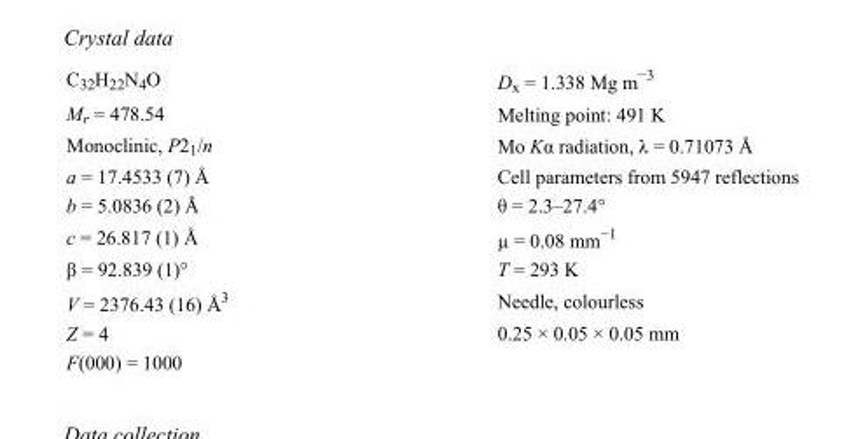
<table><tbody><tr><td>C<sub>32</sub>H<sub>22</sub>N<sub>4</sub>O</td><td>D<sub>x</sub> = 1.338 Mg m<sup>−3</sup></td></tr><tr><td>M<sub>r</sub> = 478.54</td><td>Melting point: 491 K</td></tr><tr><td>Monoclinic, P2<sub>1</sub>/n</td><td>Mo Kα radiation, λ = 0.71073 Å</td></tr><tr><td>a = 17.4533 (7) Å</td><td>Cell parameters from 5947 reflections</td></tr><tr><td>b = 5.0836 (2) Å</td><td>θ = 2.3–27.4°</td></tr><tr><td>c = 26.817 (1) Å</td><td>µ = 0.08 mm<sup>−1</sup></td></tr><tr><td>β = 92.839 (1)°</td><td>T = 293 K</td></tr><tr><td>V = 2376.43 (16) Å<sup>3</sup></td><td>Needle, colourless</td></tr><tr><td>Z = 4</td><td>0.25 × 0.05 × 0.05 mm</td></tr><tr><td>F(000) = 1000</td><td></td></tr></tbody></table>